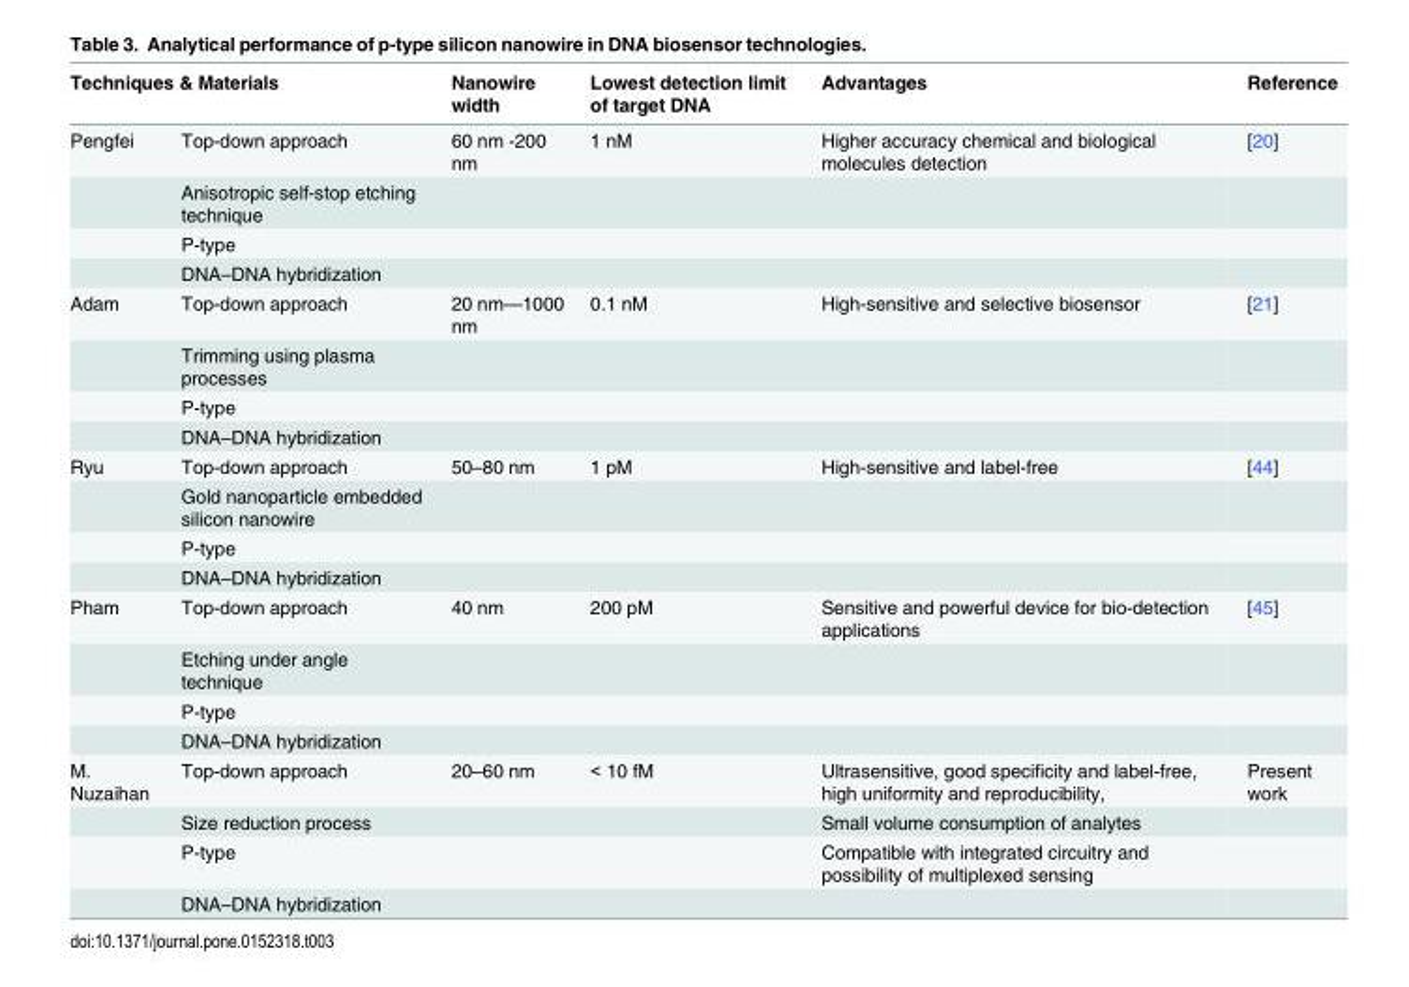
<table><thead><tr><td colspan="2">Techniques &amp; Materials</td><td rowspan="2">Nanowire width 60 nm -200 nm</td><td rowspan="2">Lowest detection limit of target DNA 1 nM</td><td rowspan="2">Advantages Higher accuracy chemical and biological molecules detection</td><td rowspan="2">Reference [20]</td></tr><tr><td>Pengfei</td><td>Top-down approach</td></tr></thead><tbody><tr><td></td><td>Anisotropic self-stop etching technique</td><td></td><td></td><td></td><td></td></tr><tr><td></td><td>P-type</td><td></td><td></td><td></td><td></td></tr><tr><td></td><td>DNA–DNA hybridization</td><td></td><td></td><td></td><td></td></tr><tr><td rowspan="4">Adam</td><td>Top-down approach</td><td>20 nm—1000 nm</td><td>0.1 nM</td><td>High-sensitive and selective biosensor</td><td>[21]</td></tr><tr><td>Trimming using plasma processes</td><td></td><td></td><td></td><td></td></tr><tr><td>P-type</td><td></td><td></td><td></td><td></td></tr><tr><td>DNA–DNA hybridization</td><td></td><td></td><td></td><td></td></tr><tr><td rowspan="4">Ryu</td><td>Top-down approach</td><td>50–80 nm</td><td>1 pM</td><td>High-sensitive and label-free</td><td>[44]</td></tr><tr><td>Gold nanoparticle embedded silicon nanowire</td><td></td><td></td><td></td><td></td></tr><tr><td>P-type</td><td></td><td></td><td></td><td></td></tr><tr><td>DNA–DNA hybridization</td><td></td><td></td><td></td><td></td></tr><tr><td rowspan="4">Pham</td><td>Top-down approach</td><td>40 nm</td><td>200 pM</td><td>Sensitive and powerful device for bio-detection applications</td><td>[45]</td></tr><tr><td>Etching under angle technique</td><td></td><td></td><td></td><td></td></tr><tr><td>P-type</td><td></td><td></td><td></td><td></td></tr><tr><td>DNA–DNA hybridization</td><td></td><td></td><td></td><td></td></tr><tr><td rowspan="4">M. Nuzaihan</td><td>Top-down approach</td><td>20–60 nm</td><td>&lt; 10 fM</td><td>Ultrasensitive, good specificity and label-free, high uniformity and reproducibility,</td><td>Present work</td></tr><tr><td>Size reduction process</td><td></td><td></td><td>Small volume consumption of analytes</td><td></td></tr><tr><td>P-type</td><td></td><td></td><td>Compatible with integrated circuitry and possibility of multiplexed sensing</td><td></td></tr><tr><td>DNA–DNA hybridization</td><td></td><td></td><td></td><td></td></tr></tbody></table>